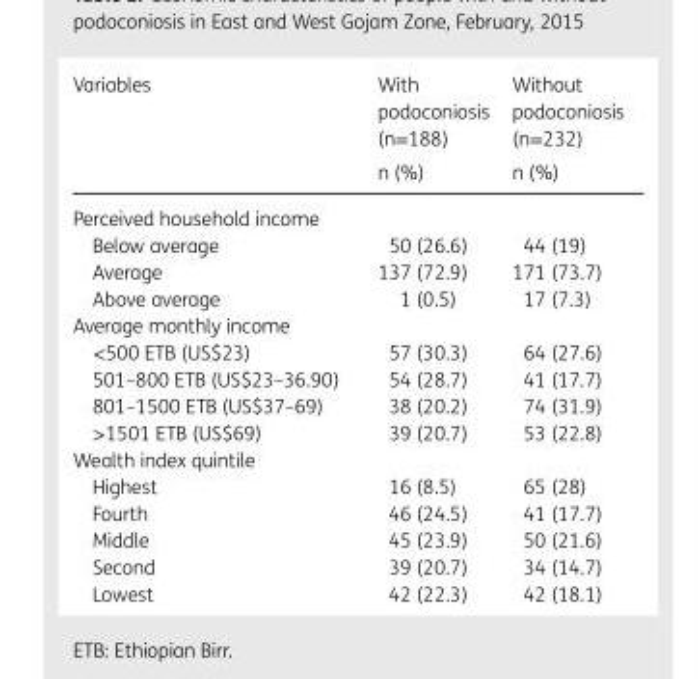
<table><thead><tr><td rowspan="2">Variables</td><td rowspan="2">With podoconiosis (n=188) n (%)</td><td rowspan="2">Without podoconiosis (n=232) n (%)</td></tr><tr></tr></thead><tbody><tr><td colspan="3">Perceived household income</td></tr><tr><td>Below average</td><td>50 (26.6)</td><td>44 (19)</td></tr><tr><td>Average</td><td>137 (72.9)</td><td>171 (73.7)</td></tr><tr><td>Above average</td><td>1 (0.5)</td><td>17 (7.3)</td></tr><tr><td colspan="3">Average monthly income</td></tr><tr><td>&lt;500 ETB (US$23)</td><td>57 (30.3)</td><td>64 (27.6)</td></tr><tr><td>501–800 ETB (US$23–36.90)</td><td>54 (28.7)</td><td>41 (17.7)</td></tr><tr><td>801–1500 ETB (US$37–69)</td><td>38 (20.2)</td><td>74 (31.9)</td></tr><tr><td>&gt;1501 ETB (US$69)</td><td>39 (20.7)</td><td>53 (22.8)</td></tr><tr><td colspan="3">Wealth index quintile</td></tr><tr><td>Highest</td><td>16 (8.5)</td><td>65 (28)</td></tr><tr><td>Fourth</td><td>46 (24.5)</td><td>41 (17.7)</td></tr><tr><td>Middle</td><td>45 (23.9)</td><td>50 (21.6)</td></tr><tr><td>Second</td><td>39 (20.7)</td><td>34 (14.7)</td></tr><tr><td>Lowest</td><td>42 (22.3)</td><td>42 (18.1)</td></tr></tbody></table>